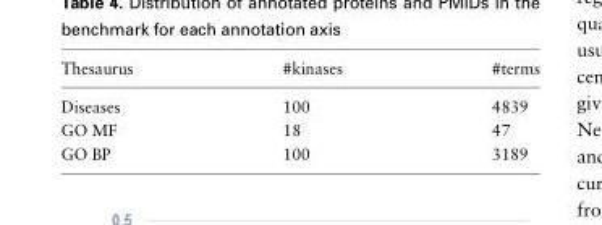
<table><thead><tr><td>Thesaurus</td><td>#kinases</td><td>#terms</td></tr></thead><tbody><tr><td>Diseases</td><td>100</td><td>4839</td></tr><tr><td>GO MF</td><td>18</td><td>47</td></tr><tr><td>GO BP</td><td>100</td><td>3189</td></tr></tbody></table>